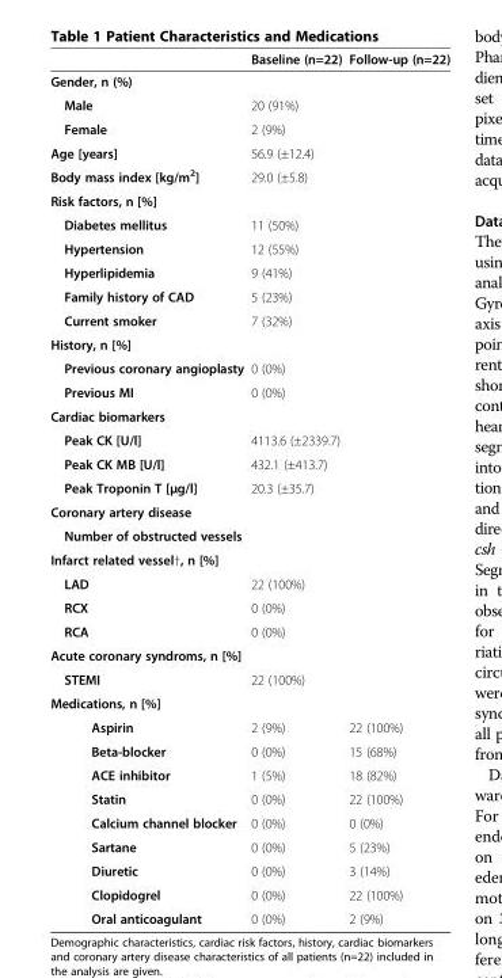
<table><thead><tr><td></td><td>Baseline (n=22)</td><td>Follow-up (n=22)</td></tr></thead><tbody><tr><td colspan="3">Gender, n (%)</td></tr><tr><td>Male</td><td>20 (91%)</td><td></td></tr><tr><td>Female</td><td>2 (9%)</td><td></td></tr><tr><td>Age [years]</td><td>56.9 (±12.4)</td><td></td></tr><tr><td>Body mass index [kg/m<sup>2</sup>]</td><td>29.0 (±5.8)</td><td></td></tr><tr><td colspan="3">Risk factors, n [%]</td></tr><tr><td>Diabetes mellitus</td><td>11 (50%)</td><td></td></tr><tr><td>Hypertension</td><td>12 (55%)</td><td></td></tr><tr><td>Hyperlipidemia</td><td>9 (41%)</td><td></td></tr><tr><td>Family history of CAD</td><td>5 (23%)</td><td></td></tr><tr><td>Current smoker</td><td>7 (32%)</td><td></td></tr><tr><td colspan="3">History, n [%]</td></tr><tr><td>Previous coronary angioplasty</td><td>0 (0%)</td><td></td></tr><tr><td>Previous MI</td><td>0 (0%)</td><td></td></tr><tr><td colspan="3">Cardiac biomarkers</td></tr><tr><td>Peak CK [U/l]</td><td>4113.6 (±2339.7)</td><td></td></tr><tr><td>Peak CK MB [U/l]</td><td>432.1 (±413.7)</td><td></td></tr><tr><td>Peak Troponin T [μg/l]</td><td>20.3 (±35.7)</td><td></td></tr><tr><td colspan="3">Coronary artery disease</td></tr><tr><td colspan="3">Number of obstructed vessels</td></tr><tr><td colspan="3">Infarct related vessel†, n [%]</td></tr><tr><td>LAD</td><td>22 (100%)</td><td></td></tr><tr><td>RCX</td><td>0 (0%)</td><td></td></tr><tr><td>RCA</td><td>0 (0%)</td><td></td></tr><tr><td colspan="3">Acute coronary syndroms, n [%]</td></tr><tr><td>STEMI</td><td>22 (100%)</td><td></td></tr><tr><td colspan="3">Medications, n [%]</td></tr><tr><td>Aspirin</td><td>2 (9%)</td><td>22 (100%)</td></tr><tr><td>Beta-blocker</td><td>0 (0%)</td><td>15 (68%)</td></tr><tr><td>ACE inhibitor</td><td>1 (5%)</td><td>18 (82%)</td></tr><tr><td>Statin</td><td>0 (0%)</td><td>22 (100%)</td></tr><tr><td>Calcium channel blocker</td><td>0 (0%)</td><td>0 (0%)</td></tr><tr><td>Sartane</td><td>0 (0%)</td><td>5 (23%)</td></tr><tr><td>Diuretic</td><td>0 (0%)</td><td>3 (14%)</td></tr><tr><td>Clopidogrel</td><td>0 (0%)</td><td>22 (100%)</td></tr><tr><td>Oral anticoagulant</td><td>0 (0%)</td><td>2 (9%)</td></tr></tbody></table>